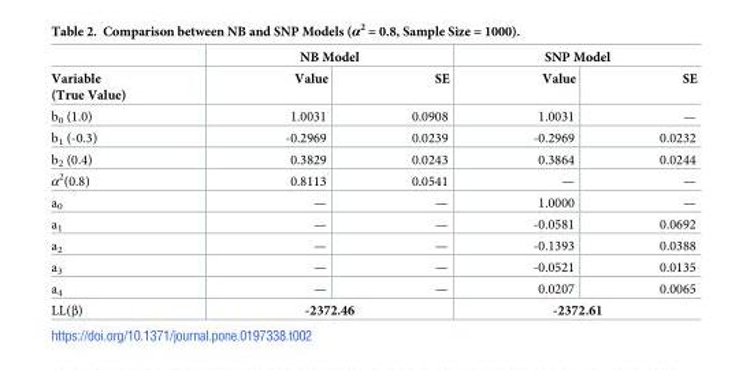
<table><thead><tr><td rowspan="2">Variable (True Value)</td><td colspan="2">NB Model</td><td colspan="2">SNP Model</td></tr><tr><td>Value</td><td>SE</td><td>Value</td><td>SE</td></tr></thead><tbody><tr><td>b<sub>0</sub> (1.0)</td><td>1.0031</td><td>0.0908</td><td>1.0031</td><td>—</td></tr><tr><td>b<sub>1</sub> (-0.3)</td><td>-0.2969</td><td>0.0239</td><td>-0.2969</td><td>0.0232</td></tr><tr><td>b<sub>2</sub> (0.4)</td><td>0.3829</td><td>0.0243</td><td>0.3864</td><td>0.0244</td></tr><tr><td>α<sup>2</sup>(0.8)</td><td>0.8113</td><td>0.0541</td><td>—</td><td>—</td></tr><tr><td>a<sub>0</sub></td><td>—</td><td>—</td><td>1.0000</td><td>—</td></tr><tr><td>a<sub>1</sub></td><td>—</td><td>—</td><td>-0.0581</td><td>0.0692</td></tr><tr><td>a<sub>2</sub></td><td>—</td><td>—</td><td>-0.1393</td><td>0.0388</td></tr><tr><td>a<sub>3</sub></td><td>—</td><td>—</td><td>-0.0521</td><td>0.0135</td></tr><tr><td>a<sub>4</sub></td><td>—</td><td>—</td><td>0.0207</td><td>0.0065</td></tr><tr><td>LL(β)</td><td colspan="2">-2372.46</td><td colspan="2">-2372.61</td></tr></tbody></table>